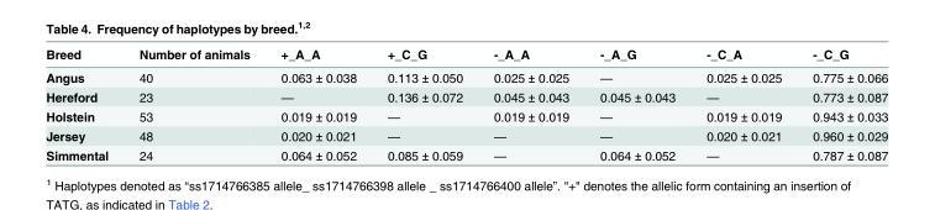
<table><thead><tr><td>Breed</td><td>Number of animals</td><td>+_A_A</td><td>+_C_G</td><td>-_A_A</td><td>-_A_G</td><td>-_C_A</td><td>-_C_G</td></tr></thead><tbody><tr><td>Angus</td><td>40</td><td>0.063 ± 0.038</td><td>0.113 ± 0.050</td><td>0.025 ± 0.025</td><td>—</td><td>0.025 ± 0.025</td><td>0.775 ± 0.066</td></tr><tr><td>Hereford</td><td>23</td><td>—</td><td>0.136 ± 0.072</td><td>0.045 ± 0.043</td><td>0.045 ± 0.043</td><td>—</td><td>0.773 ± 0.087</td></tr><tr><td>Holstein</td><td>53</td><td>0.019 ± 0.019</td><td>—</td><td>0.019 ± 0.019</td><td>—</td><td>0.019 ± 0.019</td><td>0.943 ± 0.033</td></tr><tr><td>Jersey</td><td>48</td><td>0.020 ± 0.021</td><td>—</td><td>—</td><td>—</td><td>0.020 ± 0.021</td><td>0.960 ± 0.029</td></tr><tr><td>Simmental</td><td>24</td><td>0.064 ± 0.052</td><td>0.085 ± 0.059</td><td>—</td><td>0.064 ± 0.052</td><td>—</td><td>0.787 ± 0.087</td></tr></tbody></table>